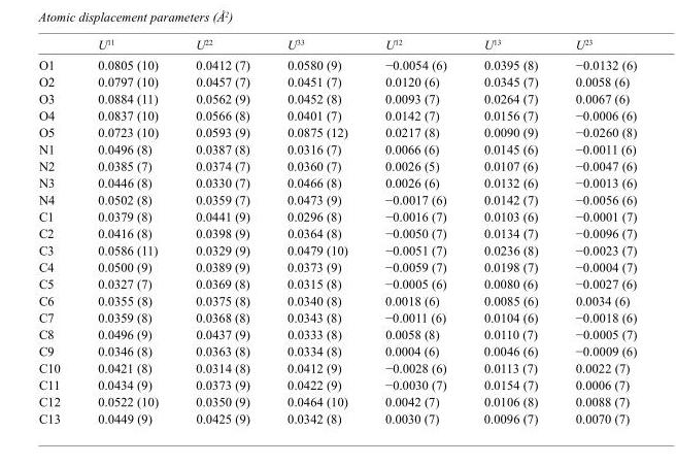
<table><thead><tr><td></td><td>U<sup>11</sup></td><td>U<sup>22</sup></td><td>U<sup>33</sup></td><td>U<sup>12</sup></td><td>U<sup>13</sup></td><td>U<sup>23</sup></td></tr></thead><tbody><tr><td>O1</td><td>0.0805 (10)</td><td>0.0412 (7)</td><td>0.0580 (9)</td><td>−0.0054 (6)</td><td>0.0395 (8)</td><td>−0.0132 (6)</td></tr><tr><td>O2</td><td>0.0797 (10)</td><td>0.0457 (7)</td><td>0.0451 (7)</td><td>0.0120 (6)</td><td>0.0345 (7)</td><td>0.0058 (6)</td></tr><tr><td>O3</td><td>0.0884 (11)</td><td>0.0562 (9)</td><td>0.0452 (8)</td><td>0.0093 (7)</td><td>0.0264 (7)</td><td>0.0067 (6)</td></tr><tr><td>O4</td><td>0.0837 (10)</td><td>0.0566 (8)</td><td>0.0401 (7)</td><td>0.0142 (7)</td><td>0.0156 (7)</td><td>−0.0006 (6)</td></tr><tr><td>O5</td><td>0.0723 (10)</td><td>0.0593 (9)</td><td>0.0875 (12)</td><td>0.0217 (8)</td><td>0.0090 (9)</td><td>−0.0260 (8)</td></tr><tr><td>N1</td><td>0.0496 (8)</td><td>0.0387 (8)</td><td>0.0316 (7)</td><td>0.0066 (6)</td><td>0.0145 (6)</td><td>−0.0011 (6)</td></tr><tr><td>N2</td><td>0.0385 (7)</td><td>0.0374 (7)</td><td>0.0360 (7)</td><td>0.0026 (5)</td><td>0.0107 (6)</td><td>−0.0047 (6)</td></tr><tr><td>N3</td><td>0.0446 (8)</td><td>0.0330 (7)</td><td>0.0466 (8)</td><td>0.0026 (6)</td><td>0.0132 (6)</td><td>−0.0013 (6)</td></tr><tr><td>N4</td><td>0.0502 (8)</td><td>0.0359 (7)</td><td>0.0473 (9)</td><td>−0.0017 (6)</td><td>0.0142 (7)</td><td>−0.0056 (6)</td></tr><tr><td>C1</td><td>0.0379 (8)</td><td>0.0441 (9)</td><td>0.0296 (8)</td><td>−0.0016 (7)</td><td>0.0103 (6)</td><td>−0.0001 (7)</td></tr><tr><td>C2</td><td>0.0416 (8)</td><td>0.0398 (9)</td><td>0.0364 (8)</td><td>−0.0050 (7)</td><td>0.0134 (7)</td><td>−0.0096 (7)</td></tr><tr><td>C3</td><td>0.0586 (11)</td><td>0.0329 (9)</td><td>0.0479 (10)</td><td>−0.0051 (7)</td><td>0.0236 (8)</td><td>−0.0023 (7)</td></tr><tr><td>C4</td><td>0.0500 (9)</td><td>0.0389 (9)</td><td>0.0373 (9)</td><td>−0.0059 (7)</td><td>0.0198 (7)</td><td>−0.0004 (7)</td></tr><tr><td>C5</td><td>0.0327 (7)</td><td>0.0369 (8)</td><td>0.0315 (8)</td><td>−0.0005 (6)</td><td>0.0080 (6)</td><td>−0.0027 (6)</td></tr><tr><td>C6</td><td>0.0355 (8)</td><td>0.0375 (8)</td><td>0.0340 (8)</td><td>0.0018 (6)</td><td>0.0085 (6)</td><td>0.0034 (6)</td></tr><tr><td>C7</td><td>0.0359 (8)</td><td>0.0368 (8)</td><td>0.0343 (8)</td><td>−0.0011 (6)</td><td>0.0104 (6)</td><td>−0.0018 (6)</td></tr><tr><td>C8</td><td>0.0496 (9)</td><td>0.0437 (9)</td><td>0.0333 (8)</td><td>0.0058 (8)</td><td>0.0110 (7)</td><td>−0.0005 (7)</td></tr><tr><td>C9</td><td>0.0346 (8)</td><td>0.0363 (8)</td><td>0.0334 (8)</td><td>0.0004 (6)</td><td>0.0046 (6)</td><td>−0.0009 (6)</td></tr><tr><td>C10</td><td>0.0421 (8)</td><td>0.0314 (8)</td><td>0.0412 (9)</td><td>−0.0028 (6)</td><td>0.0113 (7)</td><td>0.0022 (7)</td></tr><tr><td>C11</td><td>0.0434 (9)</td><td>0.0373 (9)</td><td>0.0422 (9)</td><td>−0.0030 (7)</td><td>0.0154 (7)</td><td>0.0006 (7)</td></tr><tr><td>C12</td><td>0.0522 (10)</td><td>0.0350 (9)</td><td>0.0464 (10)</td><td>0.0042 (7)</td><td>0.0106 (8)</td><td>0.0088 (7)</td></tr><tr><td>C13</td><td>0.0449 (9)</td><td>0.0425 (9)</td><td>0.0342 (8)</td><td>0.0030 (7)</td><td>0.0096 (7)</td><td>0.0070 (7)</td></tr></tbody></table>